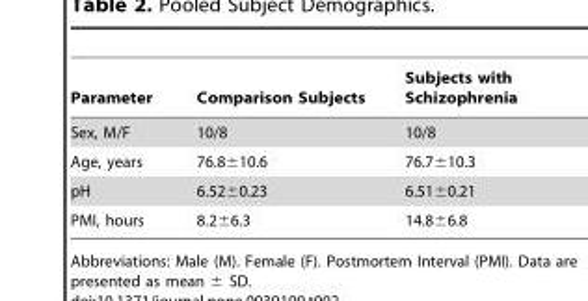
<table><thead><tr><td>Parameter</td><td>Comparison Subjects</td><td>Subjects with Schizophrenia</td></tr></thead><tbody><tr><td>Sex, M/F</td><td>10/8</td><td>10/8</td></tr><tr><td>Age, years</td><td>76.8±10.6</td><td>76.7±10.3</td></tr><tr><td>pH</td><td>6.52±0.23</td><td>6.51±0.21</td></tr><tr><td>PMI, hours</td><td>8.2±6.3</td><td>14.8±6.8</td></tr></tbody></table>